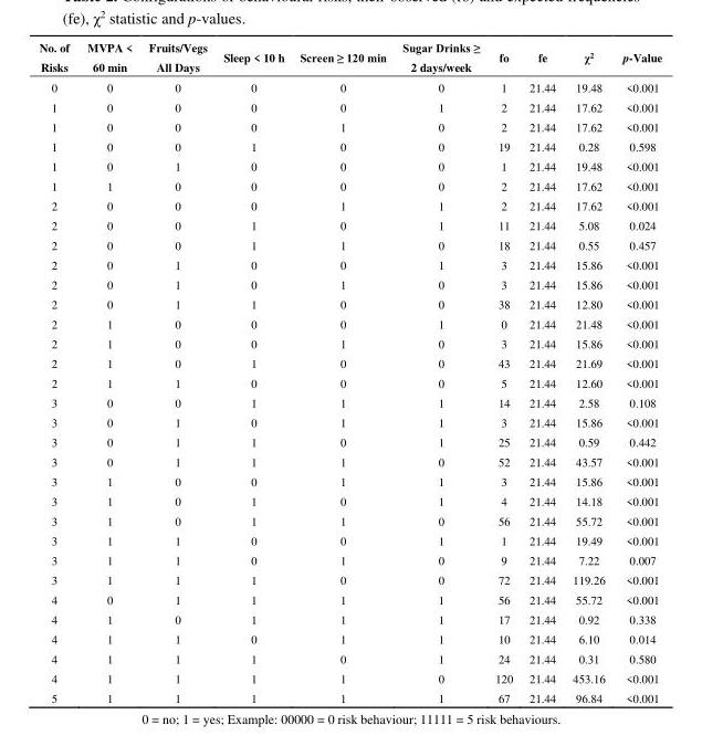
<table><thead><tr><td>No. of Risks</td><td>MVPA &lt; 60 min</td><td>Fruits/Vegs All Days</td><td>Sleep &lt; 10 h</td><td>Screen ≥ 120 min</td><td>Sugar Drinks ≥ 2 days/week</td><td>fo</td><td>fe</td><td>χ<sup>2</sup></td><td>p-Value</td></tr></thead><tbody><tr><td>0</td><td>0</td><td>0</td><td>0</td><td>0</td><td>0</td><td>1</td><td>21.44</td><td>19.48</td><td>&lt;0.001</td></tr><tr><td>1</td><td>0</td><td>0</td><td>0</td><td>0</td><td>1</td><td>2</td><td>21.44</td><td>17.62</td><td>&lt;0.001</td></tr><tr><td>1</td><td>0</td><td>0</td><td>0</td><td>1</td><td>0</td><td>2</td><td>21.44</td><td>17.62</td><td>&lt;0.001</td></tr><tr><td>1</td><td>0</td><td>0</td><td>1</td><td>0</td><td>0</td><td>19</td><td>21.44</td><td>0.28</td><td>0.598</td></tr><tr><td>1</td><td>0</td><td>1</td><td>0</td><td>0</td><td>0</td><td>1</td><td>21.44</td><td>19.48</td><td>&lt;0.001</td></tr><tr><td>1</td><td>1</td><td>0</td><td>0</td><td>0</td><td>0</td><td>2</td><td>21.44</td><td>17.62</td><td>&lt;0.001</td></tr><tr><td>2</td><td>0</td><td>0</td><td>0</td><td>1</td><td>1</td><td>2</td><td>21.44</td><td>17.62</td><td>&lt;0.001</td></tr><tr><td>2</td><td>0</td><td>0</td><td>1</td><td>0</td><td>1</td><td>11</td><td>21.44</td><td>5.08</td><td>0.024</td></tr><tr><td>2</td><td>0</td><td>0</td><td>1</td><td>1</td><td>0</td><td>18</td><td>21.44</td><td>0.55</td><td>0.457</td></tr><tr><td>2</td><td>0</td><td>1</td><td>0</td><td>0</td><td>1</td><td>3</td><td>21.44</td><td>15.86</td><td>&lt;0.001</td></tr><tr><td>2</td><td>0</td><td>1</td><td>0</td><td>1</td><td>0</td><td>3</td><td>21.44</td><td>15.86</td><td>&lt;0.001</td></tr><tr><td>2</td><td>0</td><td>1</td><td>1</td><td>0</td><td>0</td><td>38</td><td>21.44</td><td>12.80</td><td>&lt;0.001</td></tr><tr><td>2</td><td>1</td><td>0</td><td>0</td><td>0</td><td>1</td><td>0</td><td>21.44</td><td>21.48</td><td>&lt;0.001</td></tr><tr><td>2</td><td>1</td><td>0</td><td>0</td><td>1</td><td>0</td><td>3</td><td>21.44</td><td>15.86</td><td>&lt;0.001</td></tr><tr><td>2</td><td>1</td><td>0</td><td>1</td><td>0</td><td>0</td><td>43</td><td>21.44</td><td>21.69</td><td>&lt;0.001</td></tr><tr><td>2</td><td>1</td><td>1</td><td>0</td><td>0</td><td>0</td><td>5</td><td>21.44</td><td>12.60</td><td>&lt;0.001</td></tr><tr><td>3</td><td>0</td><td>0</td><td>1</td><td>1</td><td>1</td><td>14</td><td>21.44</td><td>2.58</td><td>0.108</td></tr><tr><td>3</td><td>0</td><td>1</td><td>0</td><td>1</td><td>1</td><td>3</td><td>21.44</td><td>15.86</td><td>&lt;0.001</td></tr><tr><td>3</td><td>0</td><td>1</td><td>1</td><td>0</td><td>1</td><td>25</td><td>21.44</td><td>0.59</td><td>0.442</td></tr><tr><td>3</td><td>0</td><td>1</td><td>1</td><td>1</td><td>0</td><td>52</td><td>21.44</td><td>43.57</td><td>&lt;0.001</td></tr><tr><td>3</td><td>1</td><td>0</td><td>0</td><td>1</td><td>1</td><td>3</td><td>21.44</td><td>15.86</td><td>&lt;0.001</td></tr><tr><td>3</td><td>1</td><td>0</td><td>1</td><td>0</td><td>1</td><td>4</td><td>21.44</td><td>14.18</td><td>&lt;0.001</td></tr><tr><td>3</td><td>1</td><td>0</td><td>1</td><td>1</td><td>0</td><td>56</td><td>21.44</td><td>55.72</td><td>&lt;0.001</td></tr><tr><td>3</td><td>1</td><td>1</td><td>0</td><td>0</td><td>1</td><td>1</td><td>21.44</td><td>19.49</td><td>&lt;0.001</td></tr><tr><td>3</td><td>1</td><td>1</td><td>0</td><td>1</td><td>0</td><td>9</td><td>21.44</td><td>7.22</td><td>0.007</td></tr><tr><td>3</td><td>1</td><td>1</td><td>1</td><td>0</td><td>0</td><td>72</td><td>21.44</td><td>119.26</td><td>&lt;0.001</td></tr><tr><td>4</td><td>0</td><td>1</td><td>1</td><td>1</td><td>1</td><td>56</td><td>21.44</td><td>55.72</td><td>&lt;0.001</td></tr><tr><td>4</td><td>1</td><td>0</td><td>1</td><td>1</td><td>1</td><td>17</td><td>21.44</td><td>0.92</td><td>0.338</td></tr><tr><td>4</td><td>1</td><td>1</td><td>0</td><td>1</td><td>1</td><td>10</td><td>21.44</td><td>6.10</td><td>0.014</td></tr><tr><td>4</td><td>1</td><td>1</td><td>1</td><td>0</td><td>1</td><td>24</td><td>21.44</td><td>0.31</td><td>0.580</td></tr><tr><td>4</td><td>1</td><td>1</td><td>1</td><td>1</td><td>0</td><td>120</td><td>21.44</td><td>453.16</td><td>&lt;0.001</td></tr><tr><td>5</td><td>1</td><td>1</td><td>1</td><td>1</td><td>1</td><td>67</td><td>21.44</td><td>96.84</td><td>&lt;0.001</td></tr></tbody></table>